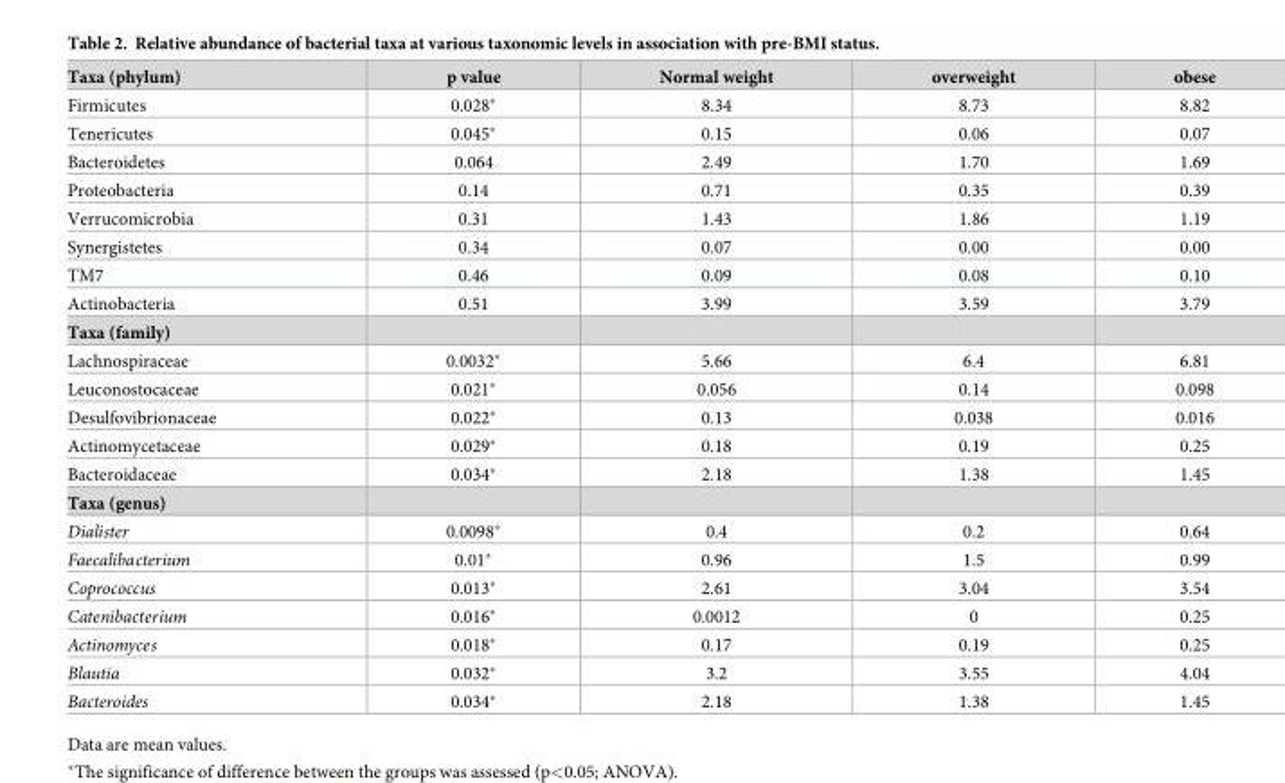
<table><tbody><tr><td>Taxa (phylum)</td><td>p value</td><td>Normal weight</td><td>overweight</td><td>obese</td></tr><tr><td>Firmicutes</td><td>0.028*</td><td>8.34</td><td>8.73</td><td>8.82</td></tr><tr><td>Tenericutes</td><td>0.045*</td><td>0.15</td><td>0.06</td><td>0.07</td></tr><tr><td>Bacteroidetes</td><td>0.064</td><td>2.49</td><td>1.70</td><td>1.69</td></tr><tr><td>Proteobacteria</td><td>0.14</td><td>0.71</td><td>0.35</td><td>0.39</td></tr><tr><td>Verrucomicrobia</td><td>0.31</td><td>1.43</td><td>1.86</td><td>1.19</td></tr><tr><td>Synergistetes</td><td>0.34</td><td>0.07</td><td>0.00</td><td>0.00</td></tr><tr><td>TM7</td><td>0.46</td><td>0.09</td><td>0.08</td><td>0.10</td></tr><tr><td>Actinobacteria</td><td>0.51</td><td>3.99</td><td>3.59</td><td>3.79</td></tr><tr><td colspan="5">Taxa (family)</td></tr><tr><td>Lachnospiraceae</td><td>0.0032*</td><td>5.66</td><td>6.4</td><td>6.81</td></tr><tr><td>Leuconostocaceae</td><td>0.021*</td><td>0.056</td><td>0.14</td><td>0.098</td></tr><tr><td>Desulfovibrionaceae</td><td>0.022*</td><td>0.13</td><td>0.038</td><td>0.016</td></tr><tr><td>Actinomycetaceae</td><td>0.029*</td><td>0.18</td><td>0.19</td><td>0.25</td></tr><tr><td>Bacteroidaceae</td><td>0.034*</td><td>2.18</td><td>1.38</td><td>1.45</td></tr><tr><td colspan="5">Taxa (genus)</td></tr><tr><td>Dialister</td><td>0.0098*</td><td>0.4</td><td>0.2</td><td>0.64</td></tr><tr><td>Faecalibacterium</td><td>0.01*</td><td>0.96</td><td>1.5</td><td>0.99</td></tr><tr><td>Coprococcus</td><td>0.013*</td><td>2.61</td><td>3.04</td><td>3.54</td></tr><tr><td>Catenibacterium</td><td>0.016*</td><td>0.0012</td><td>0</td><td>0.25</td></tr><tr><td>Actinomyces</td><td>0.018*</td><td>0.17</td><td>0.19</td><td>0.25</td></tr><tr><td>Blautia</td><td>0.032*</td><td>3.2</td><td>3.55</td><td>4.04</td></tr><tr><td>Bacteroides</td><td>0.034*</td><td>2.18</td><td>1.38</td><td>1.45</td></tr></tbody></table>